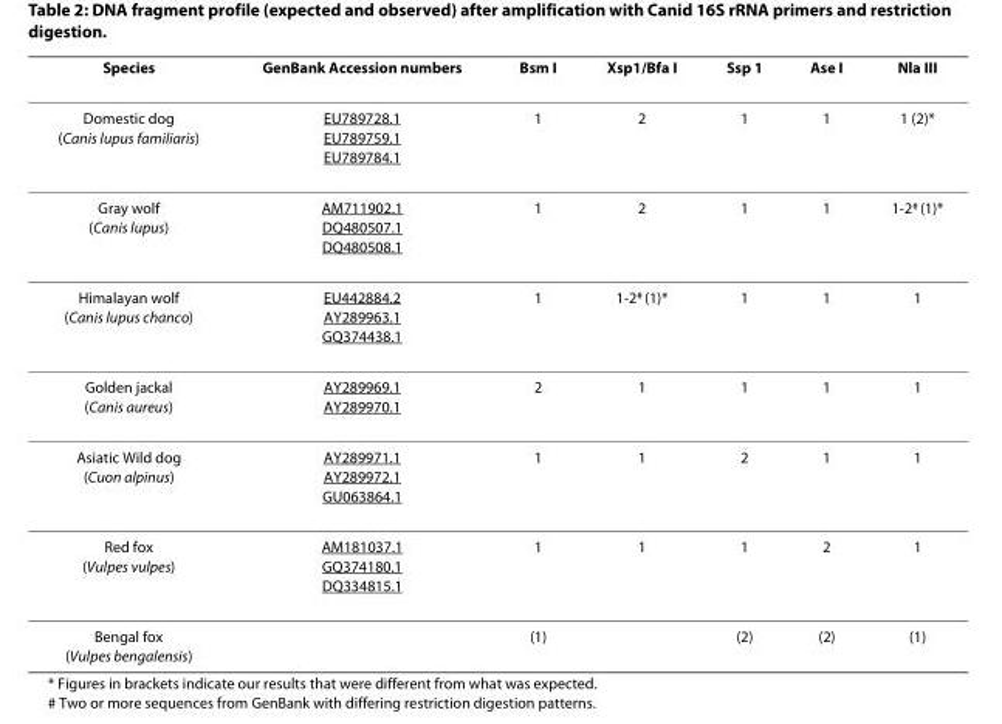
<table><thead><tr><td>Species</td><td>GenBank Accession numbers</td><td>Bsm I</td><td>Xsp1/Bfa I</td><td>Ssp 1</td><td>Ase I</td><td>Nla III</td></tr></thead><tbody><tr><td>Domestic dog (Canis lupus familiaris)</td><td>EU789728.1 EU789759.1 EU789784.1</td><td>1</td><td>2</td><td>1</td><td>1</td><td>1 (2)*</td></tr><tr><td>Gray wolf (Canis lupus)</td><td>AM711902.1 DQ480507.1 DQ480508.1</td><td>1</td><td>2</td><td>1</td><td>1</td><td>1-2<sup>#</sup> (1)*</td></tr><tr><td>Himalayan wolf (Canis lupus chanco)</td><td>EU442884.2 AY289963.1 GQ374438.1</td><td>1</td><td>1-2<sup>#</sup> (1)*</td><td>1</td><td>1</td><td>1</td></tr><tr><td>Golden jackal (Canis aureus)</td><td>AY289969.1 AY289970.1</td><td>2</td><td>1</td><td>1</td><td>1</td><td>1</td></tr><tr><td>Asiatic Wild dog (Cuon alpinus)</td><td>AY289971.1 AY289972.1 GU063864.1</td><td>1</td><td>1</td><td>2</td><td>1</td><td>1</td></tr><tr><td>Red fox (Vulpes vulpes)</td><td>AM181037.1 GQ374180.1 DQ334815.1</td><td>1</td><td>1</td><td>1</td><td>2</td><td>1</td></tr><tr><td>Bengal fox (Vulpes bengalensis)</td><td></td><td>(1)</td><td></td><td>(2)</td><td>(2)</td><td>(1)</td></tr></tbody></table>